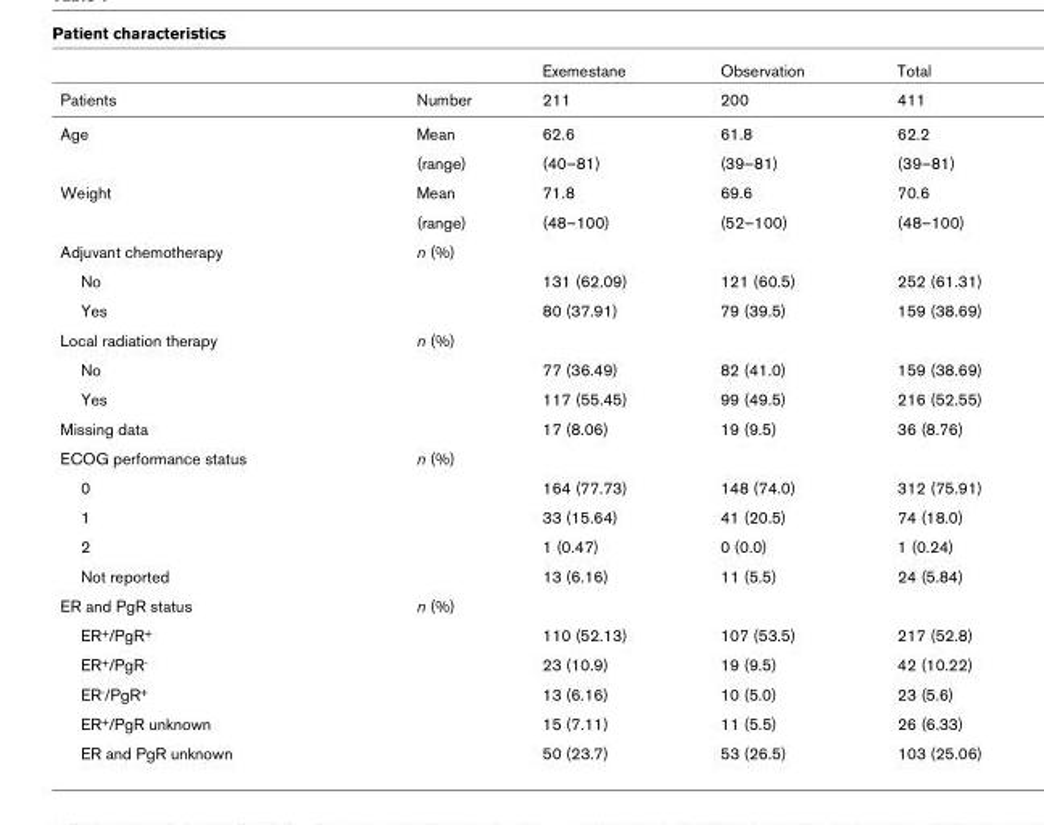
<table><thead><tr><td></td><td></td><td>Exemestane</td><td>Observation</td><td>Total</td></tr></thead><tbody><tr><td>Patients</td><td>Number</td><td>211</td><td>200</td><td>411</td></tr><tr><td rowspan="2">Age</td><td>Mean</td><td>62.6</td><td>61.8</td><td>62.2</td></tr><tr><td>(range)</td><td>(40–81)</td><td>(39–81)</td><td>(39–81)</td></tr><tr><td rowspan="2">Weight</td><td>Mean</td><td>71.8</td><td>69.6</td><td>70.6</td></tr><tr><td>(range)</td><td>(48–100)</td><td>(52–100)</td><td>(48–100)</td></tr><tr><td>Adjuvant chemotherapy</td><td>n (%)</td><td></td><td></td><td></td></tr><tr><td>No</td><td></td><td>131 (62.09)</td><td>121 (60.5)</td><td>252 (61.31)</td></tr><tr><td>Yes</td><td></td><td>80 (37.91)</td><td>79 (39.5)</td><td>159 (38.69)</td></tr><tr><td>Local radiation therapy</td><td>n (%)</td><td></td><td></td><td></td></tr><tr><td>No</td><td></td><td>77 (36.49)</td><td>82 (41.0)</td><td>159 (38.69)</td></tr><tr><td>Yes</td><td></td><td>117 (55.45)</td><td>99 (49.5)</td><td>216 (52.55)</td></tr><tr><td>Missing data</td><td></td><td>17 (8.06)</td><td>19 (9.5)</td><td>36 (8.76)</td></tr><tr><td>ECOG performance status</td><td>n (%)</td><td></td><td></td><td></td></tr><tr><td>0</td><td></td><td>164 (77.73)</td><td>148 (74.0)</td><td>312 (75.91)</td></tr><tr><td>1</td><td></td><td>33 (15.64)</td><td>41 (20.5)</td><td>74 (18.0)</td></tr><tr><td>2</td><td></td><td>1 (0.47)</td><td>0 (0.0)</td><td>1 (0.24)</td></tr><tr><td>Not reported</td><td></td><td>13 (6.16)</td><td>11 (5.5)</td><td>24 (5.84)</td></tr><tr><td>ER and PgR status</td><td>n (%)</td><td></td><td></td><td></td></tr><tr><td>ER<sup>+</sup>/PgR<sup>+</sup></td><td></td><td>110 (52.13)</td><td>107 (53.5)</td><td>217 (52.8)</td></tr><tr><td>ER<sup>+</sup>/PgR<sup>-</sup></td><td></td><td>23 (10.9)</td><td>19 (9.5)</td><td>42 (10.22)</td></tr><tr><td>ER<sup>-</sup>/PgR<sup>+</sup></td><td></td><td>13 (6.16)</td><td>10 (5.0)</td><td>23 (5.6)</td></tr><tr><td>ER<sup>+</sup>/PgR unknown</td><td></td><td>15 (7.11)</td><td>11 (5.5)</td><td>26 (6.33)</td></tr><tr><td>ER and PgR unknown</td><td></td><td>50 (23.7)</td><td>53 (26.5)</td><td>103 (25.06)</td></tr></tbody></table>